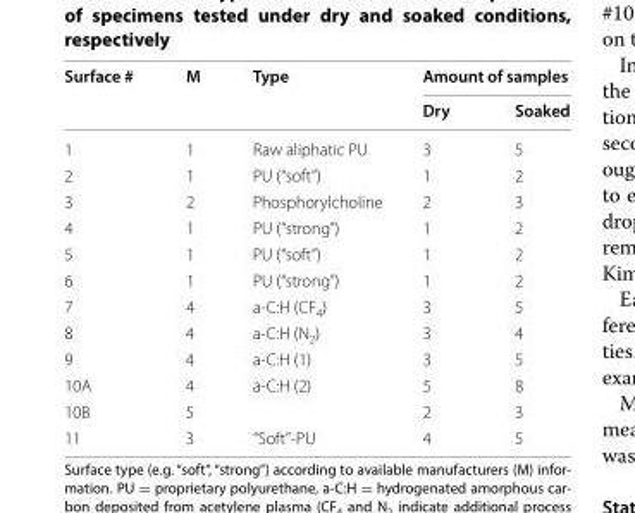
<table><thead><tr><td rowspan="2">Surface #</td><td rowspan="2">M</td><td rowspan="2">Type</td><td colspan="2">Amount of samples</td></tr><tr><td>Dry</td><td>Soaked</td></tr></thead><tbody><tr><td>1</td><td>1</td><td>Raw aliphatic PU</td><td>3</td><td>5</td></tr><tr><td>2</td><td>1</td><td>PU (“soft”)</td><td>1</td><td>2</td></tr><tr><td>3</td><td>2</td><td>Phosphorylcholine</td><td>2</td><td>3</td></tr><tr><td>4</td><td>1</td><td>PU (“strong”)</td><td>1</td><td>2</td></tr><tr><td>5</td><td>1</td><td>PU (“soft”)</td><td>1</td><td>2</td></tr><tr><td>6</td><td>1</td><td>PU (“strong”)</td><td>1</td><td>2</td></tr><tr><td>7</td><td>4</td><td>a-C:H (CF<sub>4</sub>)</td><td>3</td><td>5</td></tr><tr><td>8</td><td>4</td><td>a-C:H (N<sub>2</sub>)</td><td>3</td><td>4</td></tr><tr><td>9</td><td>4</td><td>a-C:H (1)</td><td>3</td><td>5</td></tr><tr><td>10A</td><td>4</td><td rowspan="2">a-C:H (2)</td><td>5</td><td>8</td></tr><tr><td>10B</td><td>5</td><td>2</td><td>3</td></tr><tr><td>11</td><td>3</td><td>“Soft”-PU</td><td>4</td><td>5</td></tr></tbody></table>